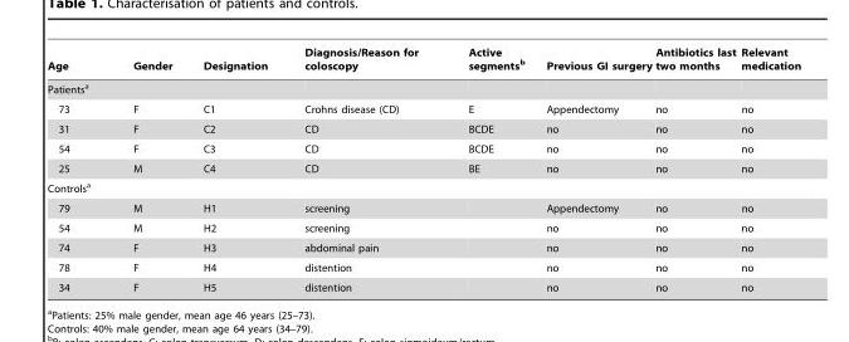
<table><thead><tr><td>Age</td><td>Gender</td><td>Designation</td><td>Diagnosis/Reason for coloscopy</td><td>Active segments<sup>b</sup></td><td>Previous GI surgery</td><td>Antibiotics last two months</td><td>Relevant medication</td></tr></thead><tbody><tr><td colspan="8">Patients<sup>a</sup></td></tr><tr><td>73</td><td>F</td><td>C1</td><td>Crohns disease (CD)</td><td>E</td><td>Appendectomy</td><td>no</td><td>no</td></tr><tr><td>31</td><td>F</td><td>C2</td><td>CD</td><td>BCDE</td><td>no</td><td>no</td><td>no</td></tr><tr><td>54</td><td>F</td><td>C3</td><td>CD</td><td>BCDE</td><td>no</td><td>no</td><td>no</td></tr><tr><td>25</td><td>M</td><td>C4</td><td>CD</td><td>BE</td><td>no</td><td>no</td><td>no</td></tr><tr><td colspan="8">Controls<sup>a</sup></td></tr><tr><td>79</td><td>M</td><td>H1</td><td>screening</td><td></td><td>Appendectomy</td><td>no</td><td>no</td></tr><tr><td>54</td><td>M</td><td>H2</td><td>screening</td><td></td><td>no</td><td>no</td><td>no</td></tr><tr><td>74</td><td>F</td><td>H3</td><td>abdominal pain</td><td></td><td>no</td><td>no</td><td>no</td></tr><tr><td>78</td><td>F</td><td>H4</td><td>distention</td><td></td><td>no</td><td>no</td><td>no</td></tr><tr><td>34</td><td>F</td><td>H5</td><td>distention</td><td></td><td>no</td><td>no</td><td>no</td></tr></tbody></table>